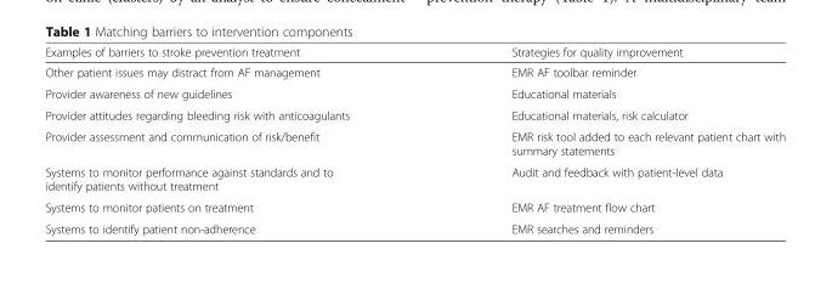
<table><thead><tr><td>Examples of barriers to stroke prevention treatment</td><td>Strategies for quality improvement</td></tr></thead><tbody><tr><td>Other patient issues may distract from AF management</td><td>EMR AF toolbar reminder</td></tr><tr><td>Provider awareness of new guidelines</td><td>Educational materials</td></tr><tr><td>Provider attitudes regarding bleeding risk with anticoagulants</td><td>Educational materials, risk calculator</td></tr><tr><td>Provider assessment and communication of risk/benefit</td><td>EMR risk tool added to each relevant patient chart with summary statements</td></tr><tr><td>Systems to monitor performance against standards and to identify patients without treatment</td><td>Audit and feedback with patient-level data</td></tr><tr><td>Systems to monitor patients on treatment</td><td>EMR AF treatment flow chart</td></tr><tr><td>Systems to identify patient non-adherence</td><td>EMR searches and reminders</td></tr></tbody></table>